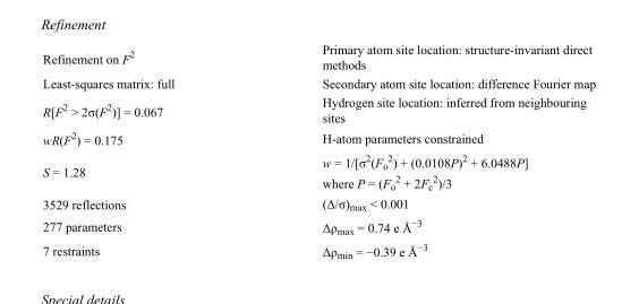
<table><tbody><tr><td>Refinement on F<sup>2</sup></td><td>Primary atom site location: structure-invariant direct methods</td></tr><tr><td>Least-squares matrix: full</td><td>Secondary atom site location: difference Fourier map</td></tr><tr><td>R[F<sup>2</sup> &gt; 2σ(F<sup>2</sup>)] = 0.067</td><td>Hydrogen site location: inferred from neighbouring sites</td></tr><tr><td>wR(F<sup>2</sup>) = 0.175</td><td>H-atom parameters constrained</td></tr><tr><td>S = 1.28</td><td>w = 1/[σ<sup>2</sup>(F<sub>o</sub> <sup>2</sup>) + (0.0108P)<sup>2</sup> + 6.0488P] where P = (F<sub>o</sub> <sup>2</sup> + 2F<sub>c</sub> <sup>2</sup>)/3</td></tr><tr><td>3529 reflections</td><td>(Δ/σ)<sub>max</sub> &lt; 0.001</td></tr><tr><td>277 parameters</td><td>Δρ<sub>max</sub> = 0.74 e Å<sup>−3</sup></td></tr><tr><td>7 restraints</td><td>Δρ<sub>min</sub> = −0.39 e Å<sup>−3</sup></td></tr></tbody></table>